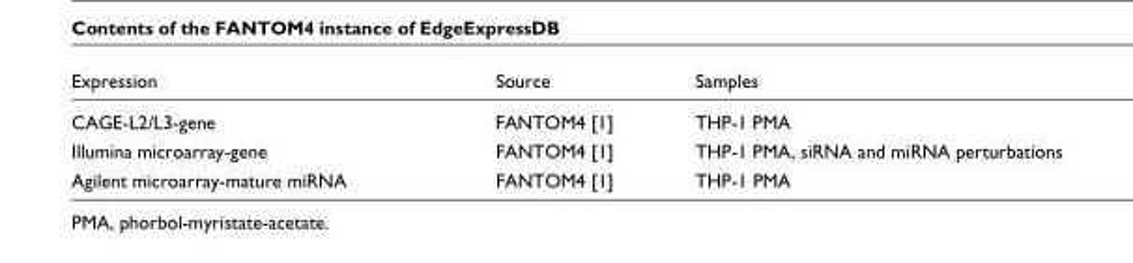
<table><thead><tr><td>Expression</td><td>Source</td><td>Samples</td></tr></thead><tbody><tr><td>CAGE-L2/L3-gene</td><td>FANTOM4 [1]</td><td>THP-1 PMA</td></tr><tr><td>Illumina microarray-gene</td><td>FANTOM4 [1]</td><td>THP-1 PMA, siRNA and miRNA perturbations</td></tr><tr><td>Agilent microarray-mature miRNA</td><td>FANTOM4 [1]</td><td>THP-1 PMA</td></tr></tbody></table>